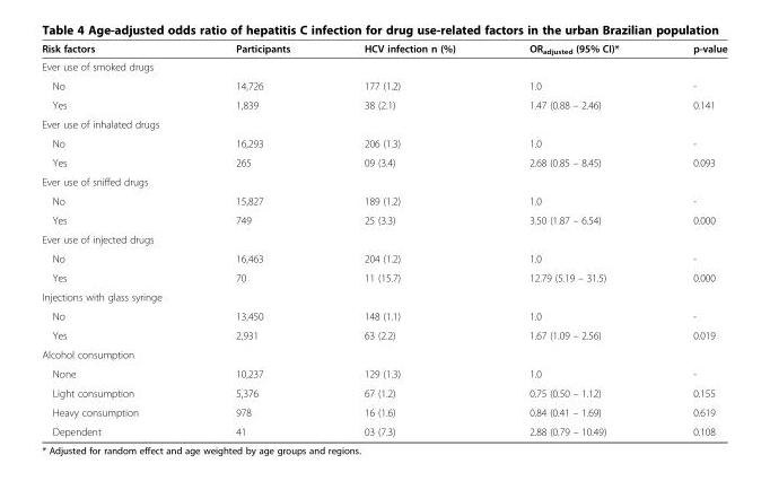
<table><thead><tr><td>Risk factors</td><td>Participants</td><td>HCV infection n (%)</td><td>OR<sub>adjusted</sub> (95% CI)*</td><td>p-value</td></tr></thead><tbody><tr><td colspan="5">Ever use of smoked drugs</td></tr><tr><td>No</td><td>14,726</td><td>177 (1.2)</td><td>1.0</td><td>-</td></tr><tr><td>Yes</td><td>1,839</td><td>38 (2.1)</td><td>1.47 (0.88 – 2.46)</td><td>0.141</td></tr><tr><td colspan="5">Ever use of inhalated drugs</td></tr><tr><td>No</td><td>16,293</td><td>206 (1.3)</td><td>1.0</td><td>-</td></tr><tr><td>Yes</td><td>265</td><td>09 (3.4)</td><td>2.68 (0.85 – 8.45)</td><td>0.093</td></tr><tr><td colspan="5">Ever use of sniffed drugs</td></tr><tr><td>No</td><td>15,827</td><td>189 (1.2)</td><td>1.0</td><td>-</td></tr><tr><td>Yes</td><td>749</td><td>25 (3.3)</td><td>3.50 (1.87 – 6.54)</td><td>0.000</td></tr><tr><td colspan="5">Ever use of injected drugs</td></tr><tr><td>No</td><td>16,463</td><td>204 (1.2)</td><td>1.0</td><td>-</td></tr><tr><td>Yes</td><td>70</td><td>11 (15.7)</td><td>12.79 (5.19 – 31.5)</td><td>0.000</td></tr><tr><td colspan="5">Injections with glass syringe</td></tr><tr><td>No</td><td>13,450</td><td>148 (1.1)</td><td>1.0</td><td>-</td></tr><tr><td>Yes</td><td>2,931</td><td>63 (2.2)</td><td>1.67 (1.09 – 2.56)</td><td>0.019</td></tr><tr><td colspan="5">Alcohol consumption</td></tr><tr><td>None</td><td>10,237</td><td>129 (1.3)</td><td>1.0</td><td>-</td></tr><tr><td>Light consumption</td><td>5,376</td><td>67 (1.2)</td><td>0.75 (0.50 – 1.12)</td><td>0.155</td></tr><tr><td>Heavy consumption</td><td>978</td><td>16 (1.6)</td><td>0.84 (0.41 – 1.69)</td><td>0.619</td></tr><tr><td>Dependent</td><td>41</td><td>03 (7.3)</td><td>2.88 (0.79 – 10.49)</td><td>0.108</td></tr></tbody></table>